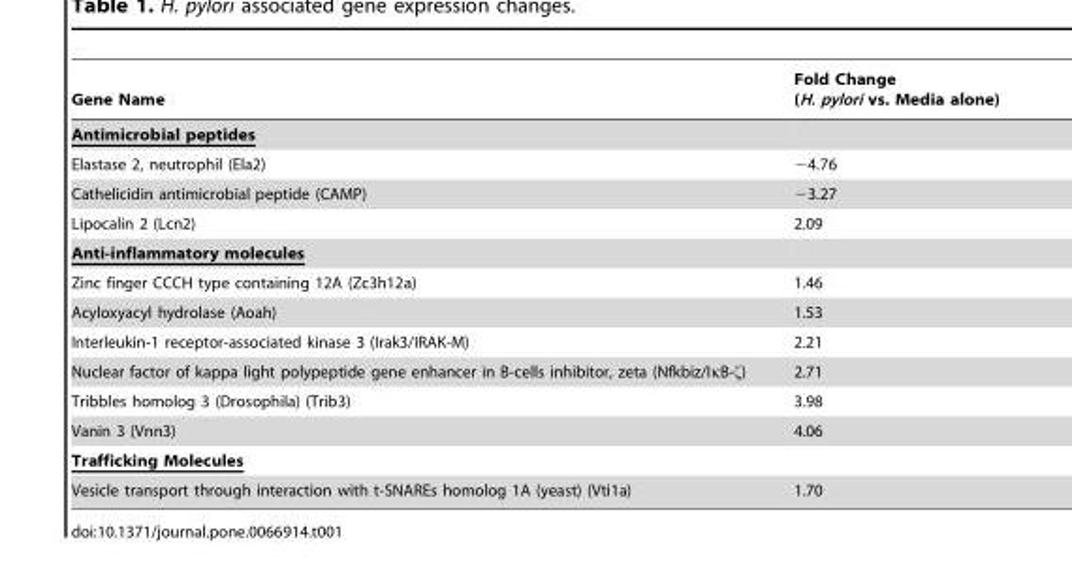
<table><thead><tr><td>Gene Name</td><td>Fold Change (H. pylori vs. Media alone)</td></tr></thead><tbody><tr><td colspan="2">Antimicrobial peptides</td></tr><tr><td>Elastase 2, neutrophil (Ela2)</td><td>−4.76</td></tr><tr><td>Cathelicidin antimicrobial peptide (CAMP)</td><td>−3.27</td></tr><tr><td>Lipocalin 2 (Lcn2)</td><td>2.09</td></tr><tr><td colspan="2">Anti-inflammatory molecules</td></tr><tr><td>Zinc finger CCCH type containing 12A (Zc3h12a)</td><td>1.46</td></tr><tr><td>Acyloxyacyl hydrolase (Aoah)</td><td>1.53</td></tr><tr><td>Interleukin-1 receptor-associated kinase 3 (Irak3/IRAK-M)</td><td>2.21</td></tr><tr><td>Nuclear factor of kappa light polypeptide gene enhancer in B-cells inhibitor, zeta (Nfkbiz/IκB-ζ)</td><td>2.71</td></tr><tr><td>Tribbles homolog 3 (Drosophila) (Trib3)</td><td>3.98</td></tr><tr><td>Vanin 3 (Vnn3)</td><td>4.06</td></tr><tr><td colspan="2">Trafficking Molecules</td></tr><tr><td>Vesicle transport through interaction with t-SNAREs homolog 1A (yeast) (Vti1a)</td><td>1.70</td></tr></tbody></table>